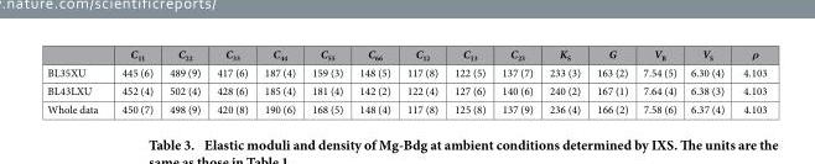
<table><thead><tr><td></td><td>C<sub>11</sub></td><td>C<sub>22</sub></td><td>C<sub>33</sub></td><td>C<sub>44</sub></td><td>C<sub>55</sub></td><td>C<sub>66</sub></td><td>C<sub>12</sub></td><td>C<sub>13</sub></td><td>C<sub>23</sub></td><td>K<sub>S</sub></td><td>G</td><td>V<sub>B</sub></td><td>V<sub>S</sub></td><td>ρ</td></tr></thead><tbody><tr><td>BL35XU</td><td>445 (6)</td><td>489 (9)</td><td>417 (6)</td><td>187 (4)</td><td>159 (3)</td><td>148 (5)</td><td>117 (8)</td><td>122 (5)</td><td>137 (7)</td><td>233 (3)</td><td>163 (2)</td><td>7.54 (5)</td><td>6.30 (4)</td><td>4.103</td></tr><tr><td>BL43LXU</td><td>452 (4)</td><td>502 (4)</td><td>428 (6)</td><td>185 (4)</td><td>181 (4)</td><td>142 (2)</td><td>122 (4)</td><td>127 (6)</td><td>140 (6)</td><td>240 (2)</td><td>167 (1)</td><td>7.64 (4)</td><td>6.38 (3)</td><td>4.103</td></tr><tr><td>Whole data</td><td>450 (7)</td><td>498 (9)</td><td>420 (8)</td><td>190 (6)</td><td>168 (5)</td><td>148 (4)</td><td>117 (8)</td><td>125 (8)</td><td>137 (9)</td><td>236 (4)</td><td>166 (2)</td><td>7.58 (6)</td><td>6.37 (4)</td><td>4.103</td></tr></tbody></table>